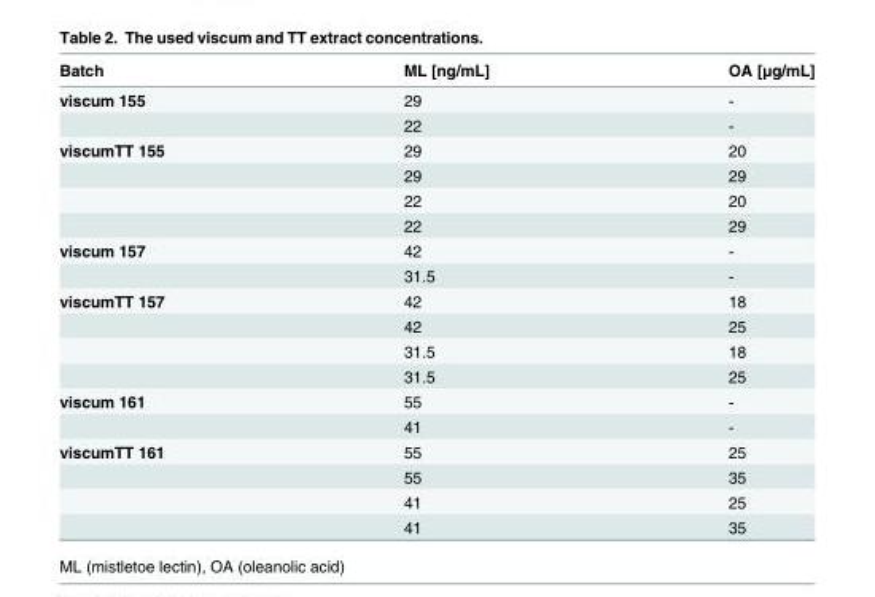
<table><thead><tr><td>Batch</td><td>ML [ng/mL]</td><td>OA [μg/mL]</td></tr></thead><tbody><tr><td rowspan="2">viscum 155</td><td>29</td><td>-</td></tr><tr><td>22</td><td>-</td></tr><tr><td rowspan="4">viscumTT 155</td><td>29</td><td>20</td></tr><tr><td>29</td><td>29</td></tr><tr><td>22</td><td>20</td></tr><tr><td>22</td><td>29</td></tr><tr><td rowspan="2">viscum 157</td><td>42</td><td>-</td></tr><tr><td>31.5</td><td>-</td></tr><tr><td rowspan="4">viscumTT 157</td><td>42</td><td>18</td></tr><tr><td>42</td><td>25</td></tr><tr><td>31.5</td><td>18</td></tr><tr><td>31.5</td><td>25</td></tr><tr><td rowspan="2">viscum 161</td><td>55</td><td>-</td></tr><tr><td>41</td><td>-</td></tr><tr><td rowspan="4">viscumTT 161</td><td>55</td><td>25</td></tr><tr><td>55</td><td>35</td></tr><tr><td>41</td><td>25</td></tr><tr><td>41</td><td>35</td></tr></tbody></table>